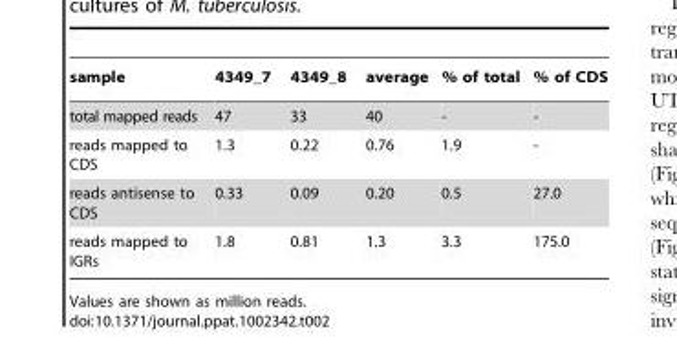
<table><thead><tr><td>sample</td><td>4349_7</td><td>4349_8</td><td>average</td><td>% of total</td><td>% of CDS</td></tr></thead><tbody><tr><td>total mapped reads</td><td>47</td><td>33</td><td>40</td><td>-</td><td>-</td></tr><tr><td>reads mapped to CDS</td><td>1.3</td><td>0.22</td><td>0.76</td><td>1.9</td><td>-</td></tr><tr><td>reads antisense to CDS</td><td>0.33</td><td>0.09</td><td>0.20</td><td>0.5</td><td>27.0</td></tr><tr><td>reads mapped to IGRs</td><td>1.8</td><td>0.81</td><td>1.3</td><td>3.3</td><td>175.0</td></tr></tbody></table>